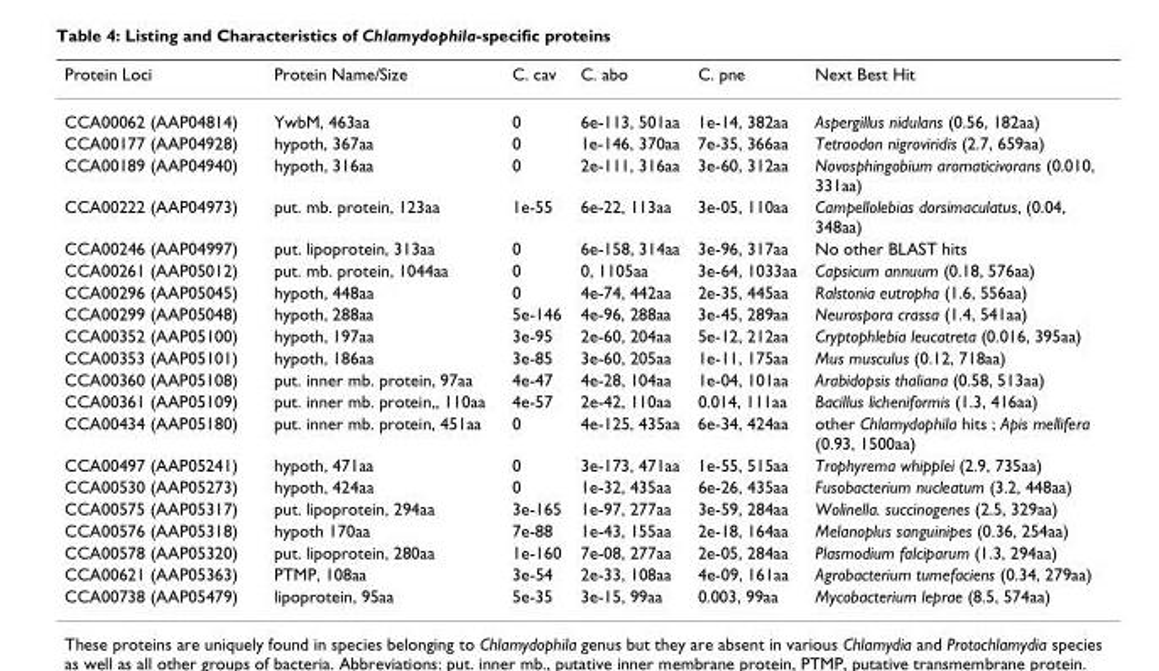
<table><thead><tr><td>Protein Loci</td><td>Protein Name/Size</td><td>C. cav</td><td>C. abo</td><td>C. pne</td><td>Next Best Hit</td></tr></thead><tbody><tr><td>CCA00062 (AAP04814)</td><td>YwbM, 463aa</td><td>0</td><td>6e-113, 501aa</td><td>1e-14, 382aa</td><td>Aspergillus nidulans (0.56, 182aa)</td></tr><tr><td>CCA00177 (AAP04928)</td><td>hypoth, 367aa</td><td>0</td><td>1e-146, 370aa</td><td>7e-35, 366aa</td><td>Tetraodon nigroviridis (2.7, 659aa)</td></tr><tr><td>CCA00189 (AAP04940)</td><td>hypoth, 316aa</td><td>0</td><td>2e-111, 316aa</td><td>3e-60, 312aa</td><td>Novosphingobium aromaticivorans (0.010, 331aa)</td></tr><tr><td>CCA00222 (AAP04973)</td><td>put. mb. protein, 123aa</td><td>1e-55</td><td>6e-22, 113aa</td><td>3e-05, 110aa</td><td>Campellolebias dorsimaculatus, (0.04, 348aa)</td></tr><tr><td>CCA00246 (AAP04997)</td><td>put. lipoprotein, 313aa</td><td>0</td><td>6e-158, 314aa</td><td>3e-96, 317aa</td><td>No other BLAST hits</td></tr><tr><td>CCA00261 (AAP05012)</td><td>put. mb. protein, 1044aa</td><td>0</td><td>0, 1105aa</td><td>3e-64, 1033aa</td><td>Capsicum annuum (0.18, 576aa)</td></tr><tr><td>CCA00296 (AAP05045)</td><td>hypoth, 448aa</td><td>0</td><td>4e-74, 442aa</td><td>2e-35, 445aa</td><td>Ralstonia eutropha (1.6, 556aa)</td></tr><tr><td>CCA00299 (AAP05048)</td><td>hypoth, 288aa</td><td>5e-146</td><td>4e-96, 288aa</td><td>3e-45, 289aa</td><td>Neurospora crassa (1.4, 541aa)</td></tr><tr><td>CCA00352 (AAP05100)</td><td>hypoth, 197aa</td><td>3e-95</td><td>2e-60, 204aa</td><td>5e-12, 212aa</td><td>Cryptophlebia leucotreta (0.016, 395aa)</td></tr><tr><td>CCA00353 (AAP05101)</td><td>hypoth, 186aa</td><td>3e-85</td><td>3e-60, 205aa</td><td>1e-11, 175aa</td><td>Mus musculus (0.12, 718aa)</td></tr><tr><td>CCA00360 (AAP05108)</td><td>put. inner mb. protein, 97aa</td><td>4e-47</td><td>4e-28, 104aa</td><td>1e-04, 101aa</td><td>Arabidopsis thaliana (0.58, 513aa)</td></tr><tr><td>CCA00361 (AAP05109)</td><td>put. inner mb. protein,, 110aa</td><td>4e-57</td><td>2e-42, 110aa</td><td>0.014, 111aa</td><td>Bacillus licheniformis (1.3, 416aa)</td></tr><tr><td>CCA00434 (AAP05180)</td><td>put. inner mb. protein, 451aa</td><td>0</td><td>4e-125, 435aa</td><td>6e-34, 424aa</td><td>other Chlamydophila hits ; Apis mellifera (0.93, 1500aa)</td></tr><tr><td>CCA00497 (AAP05241)</td><td>hypoth, 471aa</td><td>0</td><td>3e-173, 471aa</td><td>1e-55, 515aa</td><td>Trophyrema whipplei (2.9, 735aa)</td></tr><tr><td>CCA00530 (AAP05273)</td><td>hypoth, 424aa</td><td>0</td><td>1e-32, 435aa</td><td>6e-26, 435aa</td><td>Fusobacterium nucleatum (3.2, 448aa)</td></tr><tr><td>CCA00575 (AAP05317)</td><td>put. lipoprotein, 294aa</td><td>3e-165</td><td>1e-97, 277aa</td><td>3e-59, 284aa</td><td>Wolinella. succinogenes (2.5, 329aa)</td></tr><tr><td>CCA00576 (AAP05318)</td><td>hypoth 170aa</td><td>7e-88</td><td>1e-43, 155aa</td><td>2e-18, 164aa</td><td>Melanoplus sanguinipes (0.36, 254aa)</td></tr><tr><td>CCA00578 (AAP05320)</td><td>put. lipoprotein, 280aa</td><td>1e-160</td><td>7e-08, 277aa</td><td>2e-05, 284aa</td><td>Plasmodium falciparum (1.3, 294aa)</td></tr><tr><td>CCA00621 (AAP05363)</td><td>PTMP, 108aa</td><td>3e-54</td><td>2e-33, 108aa</td><td>4e-09, 161aa</td><td>Agrobacterium tumefaciens (0.34, 279aa)</td></tr><tr><td>CCA00738 (AAP05479)</td><td>lipoprotein, 95aa</td><td>5e-35</td><td>3e-15, 99aa</td><td>0.003, 99aa</td><td>Mycobacterium leprae (8.5, 574aa)</td></tr></tbody></table>